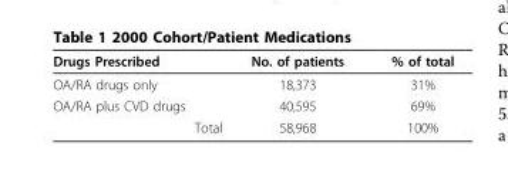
<table><thead><tr><td>Drugs Prescribed</td><td>No. of patients</td><td>% of total</td></tr></thead><tbody><tr><td>OA/RA drugs only</td><td>18,373</td><td>31%</td></tr><tr><td>OA/RA plus CVD drugs</td><td>40,595</td><td>69%</td></tr><tr><td>Total</td><td>58,968</td><td>100%</td></tr></tbody></table>